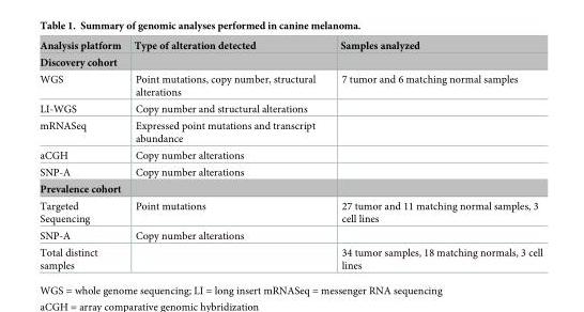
<table><thead><tr><td>Analysis platform</td><td>Type of alteration detected</td><td>Samples analyzed</td></tr></thead><tbody><tr><td colspan="3">Discovery cohort</td></tr><tr><td>WGS</td><td>Point mutations, copy number, structural alterations</td><td>7 tumor and 6 matching normal samples</td></tr><tr><td>LI-WGS</td><td>Copy number and structural alterations</td><td></td></tr><tr><td>mRNASeq</td><td>Expressed point mutations and transcript abundance</td><td></td></tr><tr><td>aCGH</td><td>Copy number alterations</td><td></td></tr><tr><td>SNP-A</td><td>Copy number alterations</td><td></td></tr><tr><td colspan="3">Prevalence cohort</td></tr><tr><td>Targeted Sequencing</td><td>Point mutations</td><td>27 tumor and 11 matching normal samples, 3 cell lines</td></tr><tr><td>SNP-A</td><td>Copy number alterations</td><td></td></tr><tr><td>Total distinct samples</td><td></td><td>34 tumor samples, 18 matching normals, 3 cell lines</td></tr></tbody></table>